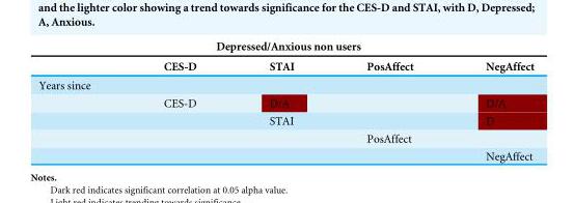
<table><thead><tr><td colspan="5">Depressed/Anxious non users</td></tr><tr><td></td><td>CES-D</td><td>STAI</td><td>PosAffect</td><td>NegAffect</td></tr></thead><tbody><tr><td colspan="5">Years since</td></tr><tr><td></td><td>CES-D</td><td>D/A</td><td></td><td>D/A</td></tr><tr><td></td><td></td><td>STAI</td><td></td><td>D</td></tr><tr><td></td><td></td><td></td><td>PosAffect</td><td></td></tr><tr><td></td><td></td><td></td><td></td><td>NegAffect</td></tr></tbody></table>